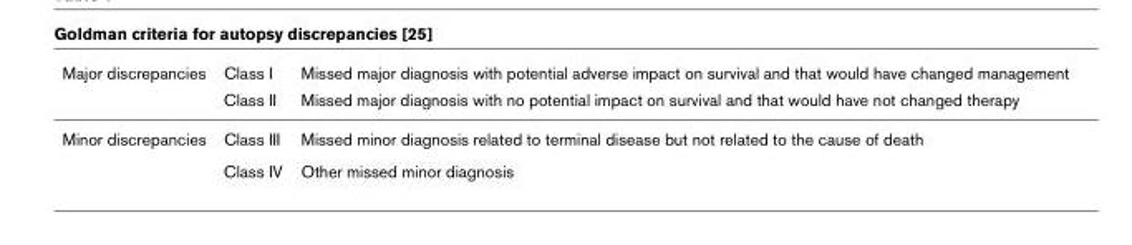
<table><thead><tr><td rowspan="2">Major discrepancies</td><td rowspan="2">Class I Class II</td><td rowspan="2">Missed major diagnosis with potential adverse impact on survival and that would have changed management Missed major diagnosis with no potential impact on survival and that would have not changed therapy</td></tr><tr></tr></thead><tbody><tr><td rowspan="2">Minor discrepancies</td><td>Class III</td><td>Missed minor diagnosis related to terminal disease but not related to the cause of death</td></tr><tr><td>Class IV</td><td>Other missed minor diagnosis</td></tr></tbody></table>